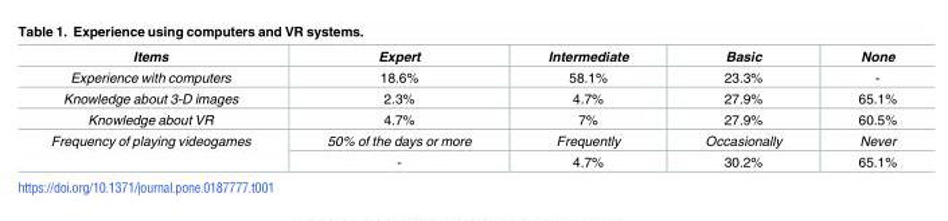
<table><thead><tr><td>Items</td><td>Expert</td><td>Intermediate</td><td>Basic</td><td>None</td></tr></thead><tbody><tr><td>Experience with computers</td><td>18.6%</td><td>58.1%</td><td>23.3%</td><td>-</td></tr><tr><td>Knowledge about 3-D images</td><td>2.3%</td><td>4.7%</td><td>27.9%</td><td>65.1%</td></tr><tr><td>Knowledge about VR</td><td>4.7%</td><td>7%</td><td>27.9%</td><td>60.5%</td></tr><tr><td rowspan="2">Frequency of playing videogames</td><td>50% of the days or more</td><td>Frequently</td><td>Occasionally</td><td>Never</td></tr><tr><td>-</td><td>4.7%</td><td>30.2%</td><td>65.1%</td></tr></tbody></table>